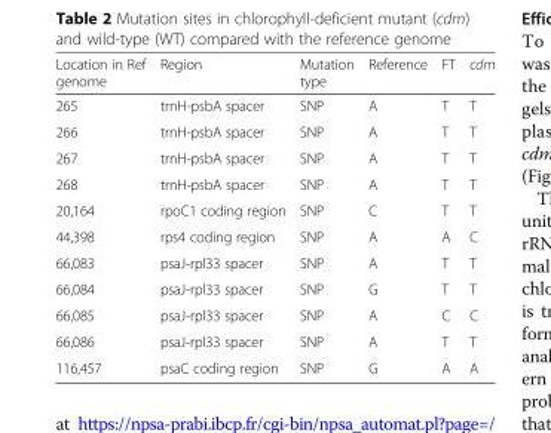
<table><thead><tr><td>Location in Ref genome</td><td>Region</td><td>Mutation type</td><td>Reference</td><td>FT</td><td>cdm</td></tr></thead><tbody><tr><td>265</td><td>trnH-psbA spacer</td><td>SNP</td><td>A</td><td>T</td><td>T</td></tr><tr><td>266</td><td>trnH-psbA spacer</td><td>SNP</td><td>A</td><td>T</td><td>T</td></tr><tr><td>267</td><td>trnH-psbA spacer</td><td>SNP</td><td>A</td><td>T</td><td>T</td></tr><tr><td>268</td><td>trnH-psbA spacer</td><td>SNP</td><td>A</td><td>T</td><td>T</td></tr><tr><td>20,164</td><td>rpoC1 coding region</td><td>SNP</td><td>C</td><td>T</td><td>T</td></tr><tr><td>44,398</td><td>rps4 coding region</td><td>SNP</td><td>A</td><td>A</td><td>C</td></tr><tr><td>66,083</td><td>psaJ-rpl33 spacer</td><td>SNP</td><td>A</td><td>T</td><td>T</td></tr><tr><td>66,084</td><td>psaJ-rpl33 spacer</td><td>SNP</td><td>G</td><td>T</td><td>T</td></tr><tr><td>66,085</td><td>psaJ-rpl33 spacer</td><td>SNP</td><td>A</td><td>C</td><td>C</td></tr><tr><td>66,086</td><td>psaJ-rpl33 spacer</td><td>SNP</td><td>A</td><td>T</td><td>T</td></tr><tr><td>116,457</td><td>psaC coding region</td><td>SNP</td><td>G</td><td>A</td><td>A</td></tr></tbody></table>